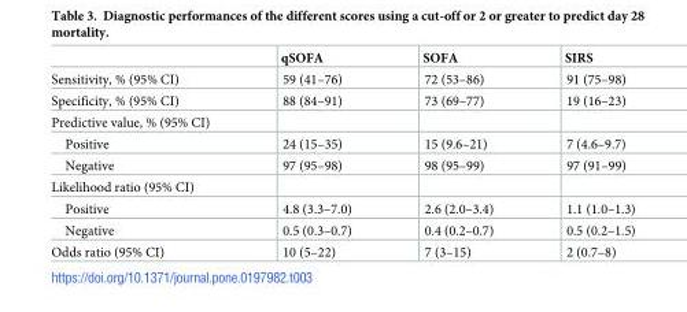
<table><thead><tr><td></td><td>qSOFA</td><td>SOFA</td><td>SIRS</td></tr></thead><tbody><tr><td>Sensitivity, % (95% CI)</td><td>59 (41–76)</td><td>72 (53–86)</td><td>91 (75–98)</td></tr><tr><td>Specificity, % (95% CI)</td><td>88 (84–91)</td><td>73 (69–77)</td><td>19 (16–23)</td></tr><tr><td colspan="4">Predictive value, % (95% CI)</td></tr><tr><td>Positive</td><td>24 (15–35)</td><td>15 (9.6–21)</td><td>7 (4.6–9.7)</td></tr><tr><td>Negative</td><td>97 (95–98)</td><td>98 (95–99)</td><td>97 (91–99)</td></tr><tr><td colspan="4">Likelihood ratio (95% CI)</td></tr><tr><td>Positive</td><td>4.8 (3.3–7.0)</td><td>2.6 (2.0–3.4)</td><td>1.1 (1.0–1.3)</td></tr><tr><td>Negative</td><td>0.5 (0.3–0.7)</td><td>0.4 (0.2–0.7)</td><td>0.5 (0.2–1.5)</td></tr><tr><td>Odds ratio (95% CI)</td><td>10 (5–22)</td><td>7 (3–15)</td><td>2 (0.7–8)</td></tr></tbody></table>